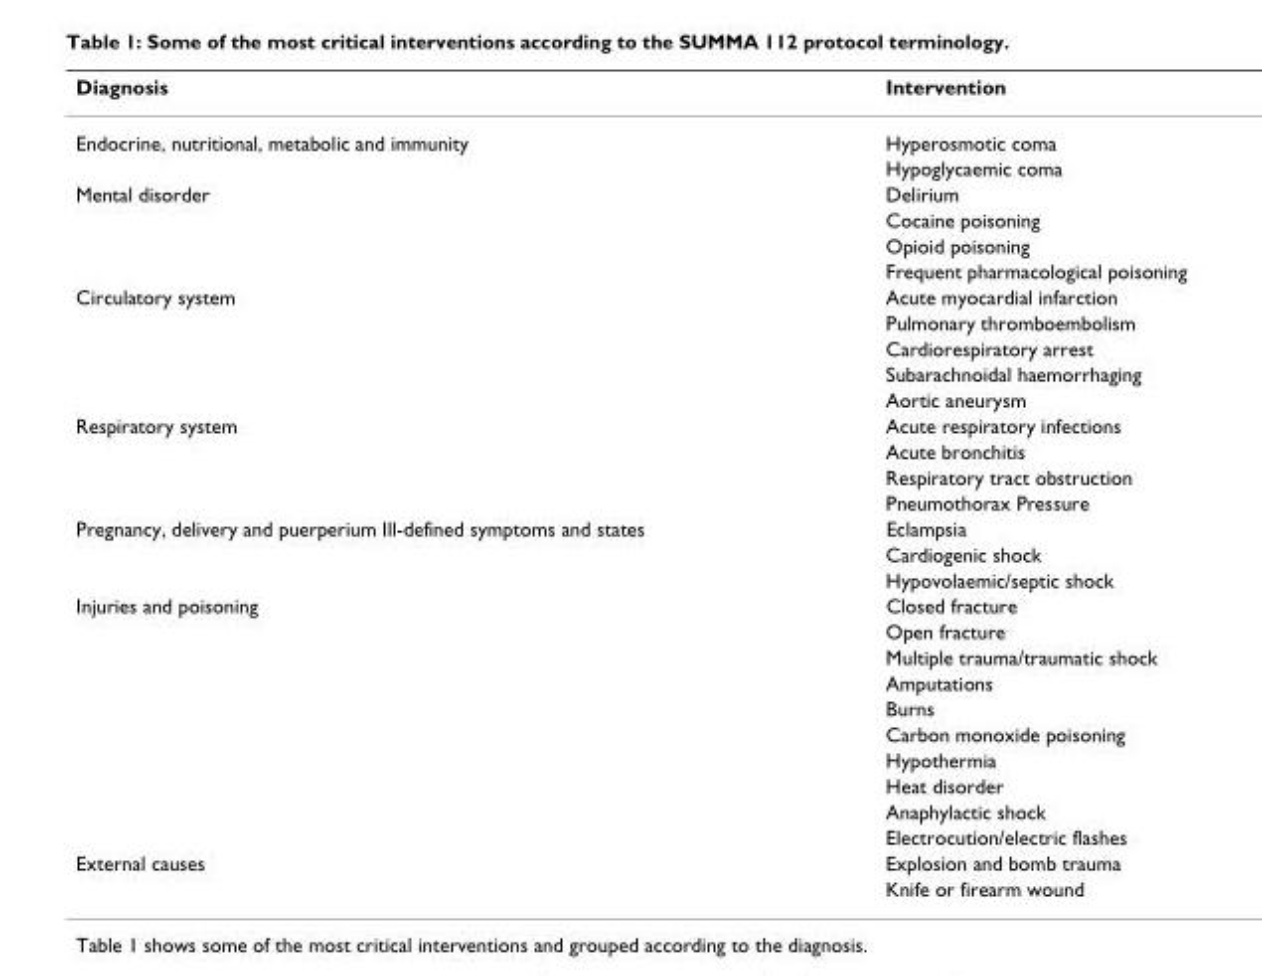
<table><thead><tr><td>Diagnosis</td><td>Intervention</td></tr></thead><tbody><tr><td rowspan="2">Endocrine, nutritional, metabolic and immunity</td><td>Hyperosmotic coma</td></tr><tr><td>Hypoglycaemic coma</td></tr><tr><td rowspan="4">Mental disorder</td><td>Delirium</td></tr><tr><td>Cocaine poisoning</td></tr><tr><td>Opioid poisoning</td></tr><tr><td>Frequent pharmacological poisoning</td></tr><tr><td rowspan="5">Circulatory system</td><td>Acute myocardial infarction</td></tr><tr><td>Pulmonary thromboembolism</td></tr><tr><td>Cardiorespiratory arrest</td></tr><tr><td>Subarachnoidal haemorrhaging</td></tr><tr><td>Aortic aneurysm</td></tr><tr><td rowspan="4">Respiratory system</td><td>Acute respiratory infections</td></tr><tr><td>Acute bronchitis</td></tr><tr><td>Respiratory tract obstruction</td></tr><tr><td>Pneumothorax Pressure</td></tr><tr><td rowspan="3">Pregnancy, delivery and puerperium Ill-defined symptoms and states</td><td>Eclampsia</td></tr><tr><td>Cardiogenic shock</td></tr><tr><td>Hypovolaemic/septic shock</td></tr><tr><td rowspan="10">Injuries and poisoning</td><td>Closed fracture</td></tr><tr><td>Open fracture</td></tr><tr><td>Multiple trauma/traumatic shock</td></tr><tr><td>Amputations</td></tr><tr><td>Burns</td></tr><tr><td>Carbon monoxide poisoning</td></tr><tr><td>Hypothermia</td></tr><tr><td>Heat disorder</td></tr><tr><td>Anaphylactic shock</td></tr><tr><td>Electrocution/electric flashes</td></tr><tr><td rowspan="2">External causes</td><td>Explosion and bomb trauma</td></tr><tr><td>Knife or firearm wound</td></tr></tbody></table>